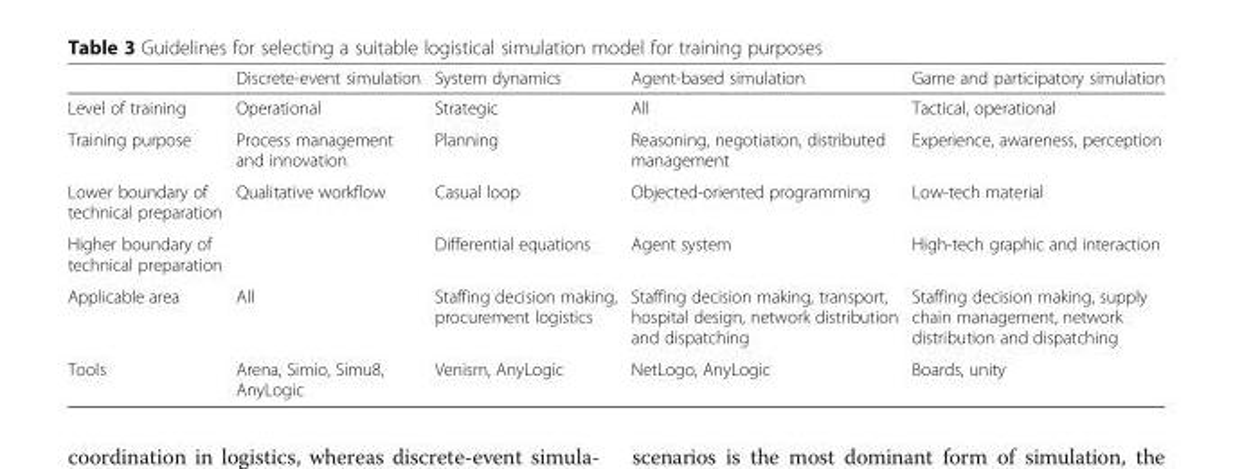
<table><thead><tr><td></td><td>Discrete-event simulation</td><td>System dynamics</td><td>Agent-based simulation</td><td>Game and participatory simulation</td></tr></thead><tbody><tr><td>Level of training</td><td>Operational</td><td>Strategic</td><td>All</td><td>Tactical, operational</td></tr><tr><td>Training purpose</td><td>Process management and innovation</td><td>Planning</td><td>Reasoning, negotiation, distributed management</td><td>Experience, awareness, perception</td></tr><tr><td>Lower boundary of technical preparation</td><td rowspan="2">Qualitative workflow</td><td>Casual loop</td><td>Objected-oriented programming</td><td>Low-tech material</td></tr><tr><td>Higher boundary of technical preparation</td><td>Differential equations</td><td>Agent system</td><td>High-tech graphic and interaction</td></tr><tr><td>Applicable area</td><td>All</td><td>Staffing decision making, procurement logistics</td><td>Staffing decision making, transport, hospital design, network distribution and dispatching</td><td>Staffing decision making, supply chain management, network distribution and dispatching</td></tr><tr><td>Tools</td><td>Arena, Simio, Simu8, AnyLogic</td><td>Venism, AnyLogic</td><td>NetLogo, AnyLogic</td><td>Boards, unity</td></tr></tbody></table>